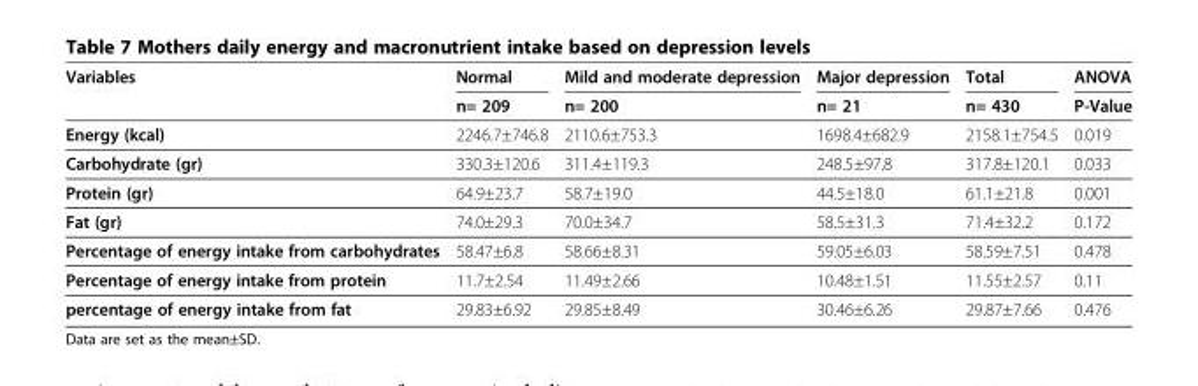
<table><thead><tr><td rowspan="2">Variables</td><td rowspan="2">Normal n= 209</td><td rowspan="2">Mild and moderate depression n= 200</td><td rowspan="2">Major depression n= 21</td><td rowspan="2">Total n= 430</td><td rowspan="2">ANOVA P-Value</td></tr><tr></tr></thead><tbody><tr><td>Energy (kcal)</td><td>2246.7±746.8</td><td>2110.6±753.3</td><td>1698.4±682.9</td><td>2158.1±754.5</td><td>0.019</td></tr><tr><td>Carbohydrate (gr)</td><td>330.3±120.6</td><td>311.4±119.3</td><td>248.5±97.8</td><td>317.8±120.1</td><td>0.033</td></tr><tr><td>Protein (gr)</td><td>64.9±23.7</td><td>58.7±19.0</td><td>44.5±18.0</td><td>61.1±21.8</td><td>0.001</td></tr><tr><td>Fat (gr)</td><td>74.0±29.3</td><td>70.0±34.7</td><td>58.5±31.3</td><td>71.4±32.2</td><td>0.172</td></tr><tr><td>Percentage of energy intake from carbohydrates</td><td>58.47±6.8</td><td>58.66±8.31</td><td>59.05±6.03</td><td>58.59±7.51</td><td>0.478</td></tr><tr><td>Percentage of energy intake from protein</td><td>11.7±2.54</td><td>11.49±2.66</td><td>10.48±1.51</td><td>11.55±2.57</td><td>0.11</td></tr><tr><td>percentage of energy intake from fat</td><td>29.83±6.92</td><td>29.85±8.49</td><td>30.46±6.26</td><td>29.87±7.66</td><td>0.476</td></tr></tbody></table>